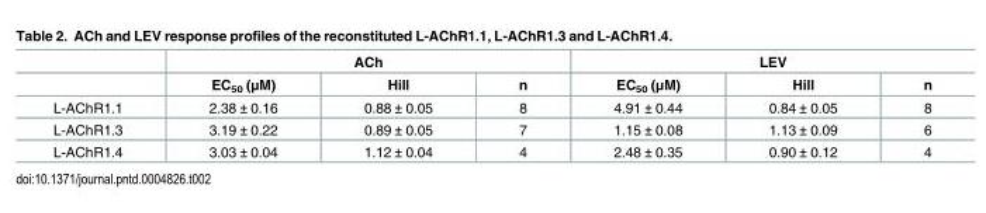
<table><thead><tr><td rowspan="2"></td><td colspan="3">ACh</td><td colspan="3">LEV</td></tr><tr><td>EC<sub>50</sub> (μM)</td><td>Hill</td><td>n</td><td>EC<sub>50</sub> (μM)</td><td>Hill</td><td>n</td></tr></thead><tbody><tr><td>L-AChR1.1</td><td>2.38 ± 0.16</td><td>0.88 ± 0.05</td><td>8</td><td>4.91 ± 0.44</td><td>0.84 ± 0.05</td><td>8</td></tr><tr><td>L-AChR1.3</td><td>3.19 ± 0.22</td><td>0.89 ± 0.05</td><td>7</td><td>1.15 ± 0.08</td><td>1.13 ± 0.09</td><td>6</td></tr><tr><td>L-AChR1.4</td><td>3.03 ± 0.04</td><td>1.12 ± 0.04</td><td>4</td><td>2.48 ± 0.35</td><td>0.90 ± 0.12</td><td>4</td></tr></tbody></table>